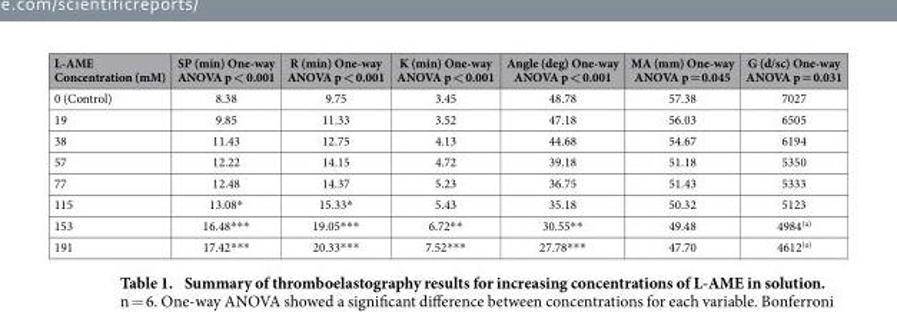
<table><thead><tr><td>L-AME Concentration (mM)</td><td>SP (min) One-way ANOVA p &lt; 0.001</td><td>R (min) One-way ANOVA p &lt; 0.001</td><td>K (min) One-way ANOVA p &lt; 0.001</td><td>Angle (deg) One-way ANOVA p &lt; 0.001</td><td>MA (mm) One-way ANOVA p = 0.045</td><td>G (d/sc) One-way ANOVA p = 0.031</td></tr></thead><tbody><tr><td>0 (Control)</td><td>8.38</td><td>9.75</td><td>3.45</td><td>48.78</td><td>57.38</td><td>7027</td></tr><tr><td>19</td><td>9.85</td><td>11.33</td><td>3.52</td><td>47.18</td><td>56.03</td><td>6505</td></tr><tr><td>38</td><td>11.43</td><td>12.75</td><td>4.13</td><td>44.68</td><td>54.67</td><td>6194</td></tr><tr><td>57</td><td>12.22</td><td>14.15</td><td>4.72</td><td>39.18</td><td>51.18</td><td>5350</td></tr><tr><td>77</td><td>12.48</td><td>14.37</td><td>5.23</td><td>36.75</td><td>51.43</td><td>5333</td></tr><tr><td>115</td><td>13.08*</td><td>15.33*</td><td>5.43</td><td>35.18</td><td>50.32</td><td>5123</td></tr><tr><td>153</td><td>16.48* * *</td><td>19.05* * *</td><td>6.72* *</td><td>30.55* *</td><td>49.48</td><td>4984(a)</td></tr><tr><td>191</td><td>17.42* * *</td><td>20.33* * *</td><td>7.52* * *</td><td>27.78* * *</td><td>47.70</td><td>4612(a)</td></tr></tbody></table>